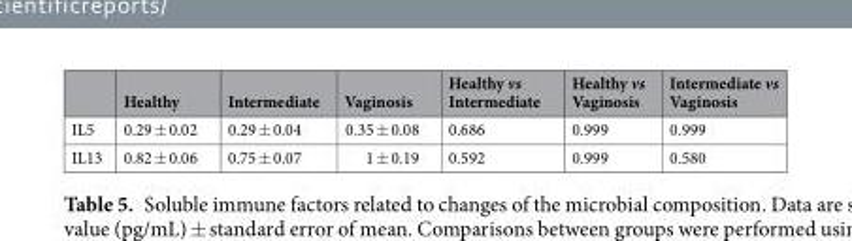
<table><thead><tr><td></td><td>Healthy</td><td>Intermediate</td><td>Vaginosis</td><td>Healthy vs Intermediate</td><td>Healthy vs Vaginosis</td><td>Intermediate vs Vaginosis</td></tr></thead><tbody><tr><td>IL5</td><td>0.29 ± 0.02</td><td>0.29 ± 0.04</td><td>0.35 ± 0.08</td><td>0.686</td><td>0.999</td><td>0.999</td></tr><tr><td>IL13</td><td>0.82 ± 0.06</td><td>0.75 ± 0.07</td><td>1 ± 0.19</td><td>0.592</td><td>0.999</td><td>0.580</td></tr></tbody></table>